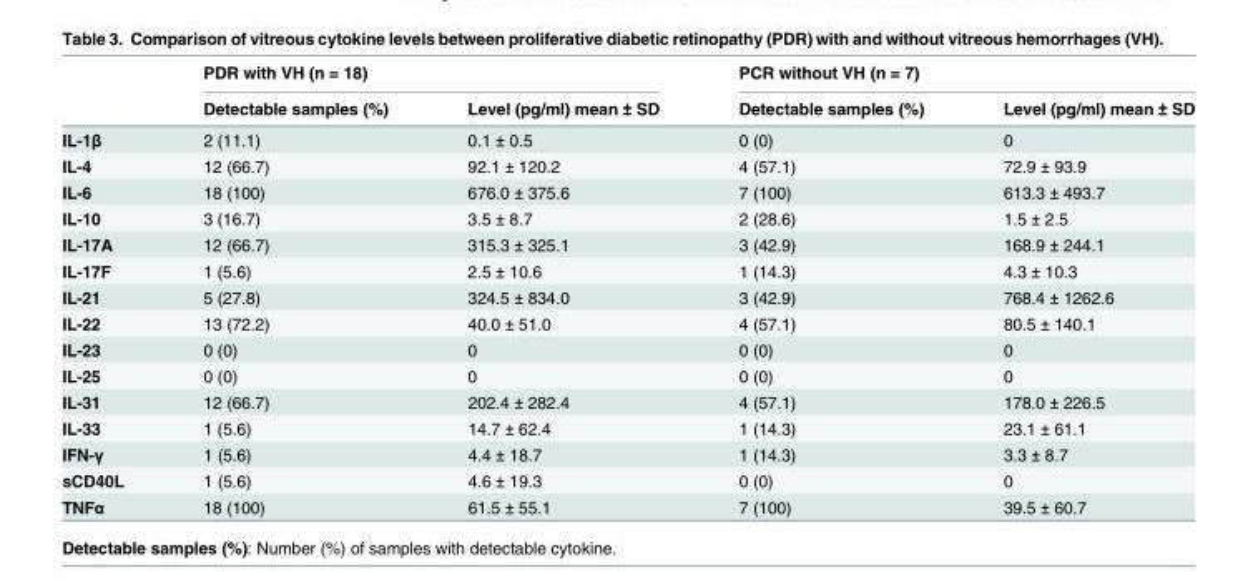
<table><thead><tr><td rowspan="2"></td><td colspan="2">PDR with VH (n = 18)</td><td colspan="2">PCR without VH (n = 7)</td></tr><tr><td>Detectable samples (%)</td><td>Level (pg/ml) mean ± SD</td><td>Detectable samples (%)</td><td>Level (pg/ml) mean ± SD</td></tr></thead><tbody><tr><td>IL-1β</td><td>2 (11.1)</td><td>0.1 ± 0.5</td><td>0 (0)</td><td>0</td></tr><tr><td>IL-4</td><td>12 (66.7)</td><td>92.1 ± 120.2</td><td>4 (57.1)</td><td>72.9 ± 93.9</td></tr><tr><td>IL-6</td><td>18 (100)</td><td>676.0 ± 375.6</td><td>7 (100)</td><td>613.3 ± 493.7</td></tr><tr><td>IL-10</td><td>3 (16.7)</td><td>3.5 ± 8.7</td><td>2 (28.6)</td><td>1.5 ± 2.5</td></tr><tr><td>IL-17A</td><td>12 (66.7)</td><td>315.3 ± 325.1</td><td>3 (42.9)</td><td>168.9 ± 244.1</td></tr><tr><td>IL-17F</td><td>1 (5.6)</td><td>2.5 ± 10.6</td><td>1 (14.3)</td><td>4.3 ± 10.3</td></tr><tr><td>IL-21</td><td>5 (27.8)</td><td>324.5 ± 834.0</td><td>3 (42.9)</td><td>768.4 ± 1262.6</td></tr><tr><td>IL-22</td><td>13 (72.2)</td><td>40.0 ± 51.0</td><td>4 (57.1)</td><td>80.5 ± 140.1</td></tr><tr><td>IL-23</td><td>0 (0)</td><td>0</td><td>0 (0)</td><td>0</td></tr><tr><td>IL-25</td><td>0 (0)</td><td>0</td><td>0 (0)</td><td>0</td></tr><tr><td>IL-31</td><td>12 (66.7)</td><td>202.4 ± 282.4</td><td>4 (57.1)</td><td>178.0 ± 226.5</td></tr><tr><td>IL-33</td><td>1 (5.6)</td><td>14.7 ± 62.4</td><td>1 (14.3)</td><td>23.1 ± 61.1</td></tr><tr><td>IFN-γ</td><td>1 (5.6)</td><td>4.4 ± 18.7</td><td>1 (14.3)</td><td>3.3 ± 8.7</td></tr><tr><td>sCD40L</td><td>1 (5.6)</td><td>4.6 ± 19.3</td><td>0 (0)</td><td>0</td></tr><tr><td>TNFα</td><td>18 (100)</td><td>61.5 ± 55.1</td><td>7 (100)</td><td>39.5 ± 60.7</td></tr></tbody></table>